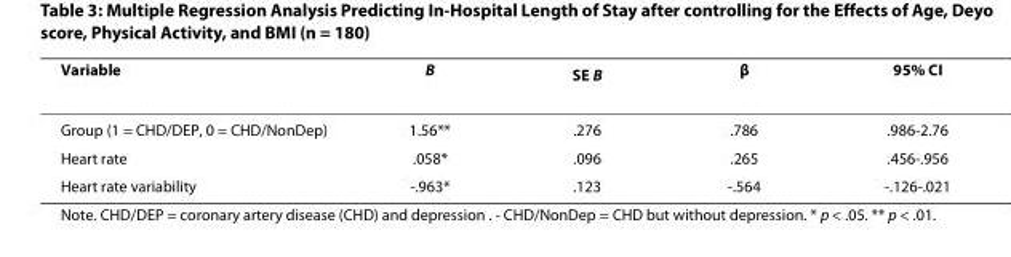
<table><thead><tr><td>Variable</td><td>B</td><td>SE B</td><td>β</td><td>95% CI</td></tr></thead><tbody><tr><td>Group (1 = CHD/DEP, 0 = CHD/NonDep)</td><td>1.56**</td><td>.276</td><td>.786</td><td>.986-2.76</td></tr><tr><td>Heart rate</td><td>.058*</td><td>.096</td><td>.265</td><td>.456-.956</td></tr><tr><td>Heart rate variability</td><td>-.963*</td><td>.123</td><td>-.564</td><td>-.126-.021</td></tr></tbody></table>